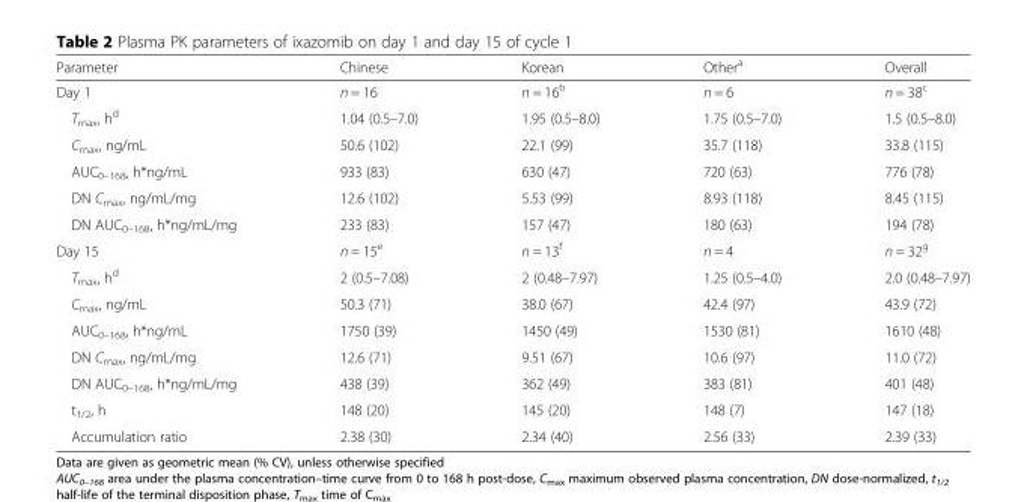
<table><thead><tr><td>Parameter</td><td>Chinese</td><td>Korean</td><td>Other<sup>a</sup></td><td>Overall</td></tr></thead><tbody><tr><td>Day 1</td><td>n = 16</td><td>n = 16<sup>b</sup></td><td>n = 6</td><td>n = 38<sup>c</sup></td></tr><tr><td>T<sub>max</sub>, h<sup>d</sup></td><td>1.04 (0.5–7.0)</td><td>1.95 (0.5–8.0)</td><td>1.75 (0.5–7.0)</td><td>1.5 (0.5–8.0)</td></tr><tr><td>C<sub>max</sub>, ng/mL</td><td>50.6 (102)</td><td>22.1 (99)</td><td>35.7 (118)</td><td>33.8 (115)</td></tr><tr><td>AUC<sub>0–168</sub>, h*ng/mL</td><td>933 (83)</td><td>630 (47)</td><td>720 (63)</td><td>776 (78)</td></tr><tr><td>DN C<sub>max</sub>, ng/mL/mg</td><td>12.6 (102)</td><td>5.53 (99)</td><td>8.93 (118)</td><td>8.45 (115)</td></tr><tr><td>DN AUC<sub>0–168</sub>, h*ng/mL/mg</td><td>233 (83)</td><td>157 (47)</td><td>180 (63)</td><td>194 (78)</td></tr><tr><td>Day 15</td><td>n = 15<sup>e</sup></td><td>n = 13<sup>f</sup></td><td>n = 4</td><td>n = 32<sup>g</sup></td></tr><tr><td>T<sub>max</sub>, h<sup>d</sup></td><td>2 (0.5–7.08)</td><td>2 (0.48–7.97)</td><td>1.25 (0.5–4.0)</td><td>2.0 (0.48–7.97)</td></tr><tr><td>C<sub>max</sub>, ng/mL</td><td>50.3 (71)</td><td>38.0 (67)</td><td>42.4 (97)</td><td>43.9 (72)</td></tr><tr><td>AUC<sub>0–168</sub>, h*ng/mL</td><td>1750 (39)</td><td>1450 (49)</td><td>1530 (81)</td><td>1610 (48)</td></tr><tr><td>DN C<sub>max</sub>, ng/mL/mg</td><td>12.6 (71)</td><td>9.51 (67)</td><td>10.6 (97)</td><td>11.0 (72)</td></tr><tr><td>DN AUC<sub>0–168</sub>, h*ng/mL/mg</td><td>438 (39)</td><td>362 (49)</td><td>383 (81)</td><td>401 (48)</td></tr><tr><td>t<sub>1/2</sub>, h</td><td>148 (20)</td><td>145 (20)</td><td>148 (7)</td><td>147 (18)</td></tr><tr><td>Accumulation ratio</td><td>2.38 (30)</td><td>2.34 (40)</td><td>2.56 (33)</td><td>2.39 (33)</td></tr></tbody></table>